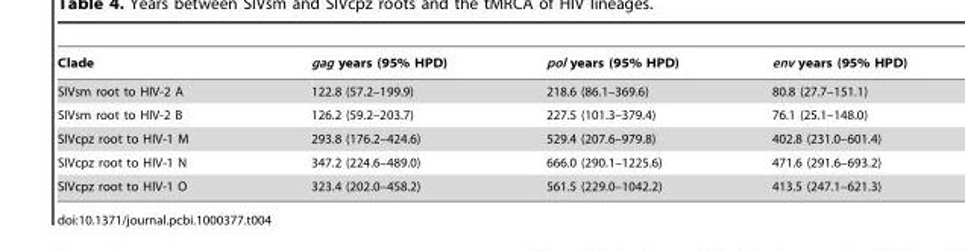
<table><thead><tr><td>Clade</td><td>gag years (95% HPD)</td><td>pol years (95% HPD)</td><td>env years (95% HPD)</td></tr></thead><tbody><tr><td>SIVsm root to HIV-2 A</td><td>122.8 (57.2–199.9)</td><td>218.6 (86.1–369.6)</td><td>80.8 (27.7–151.1)</td></tr><tr><td>SIVsm root to HIV-2 B</td><td>126.2 (59.2–203.7)</td><td>227.5 (101.3–379.4)</td><td>76.1 (25.1–148.0)</td></tr><tr><td>SIVcpz root to HIV-1 M</td><td>293.8 (176.2–424.6)</td><td>529.4 (207.6–979.8)</td><td>402.8 (231.0–601.4)</td></tr><tr><td>SIVcpz root to HIV-1 N</td><td>347.2 (224.6–489.0)</td><td>666.0 (290.1–1225.6)</td><td>471.6 (291.6–693.2)</td></tr><tr><td>SIVcpz root to HIV-1 O</td><td>323.4 (202.0–458.2)</td><td>561.5 (229.0–1042.2)</td><td>413.5 (247.1–621.3)</td></tr></tbody></table>